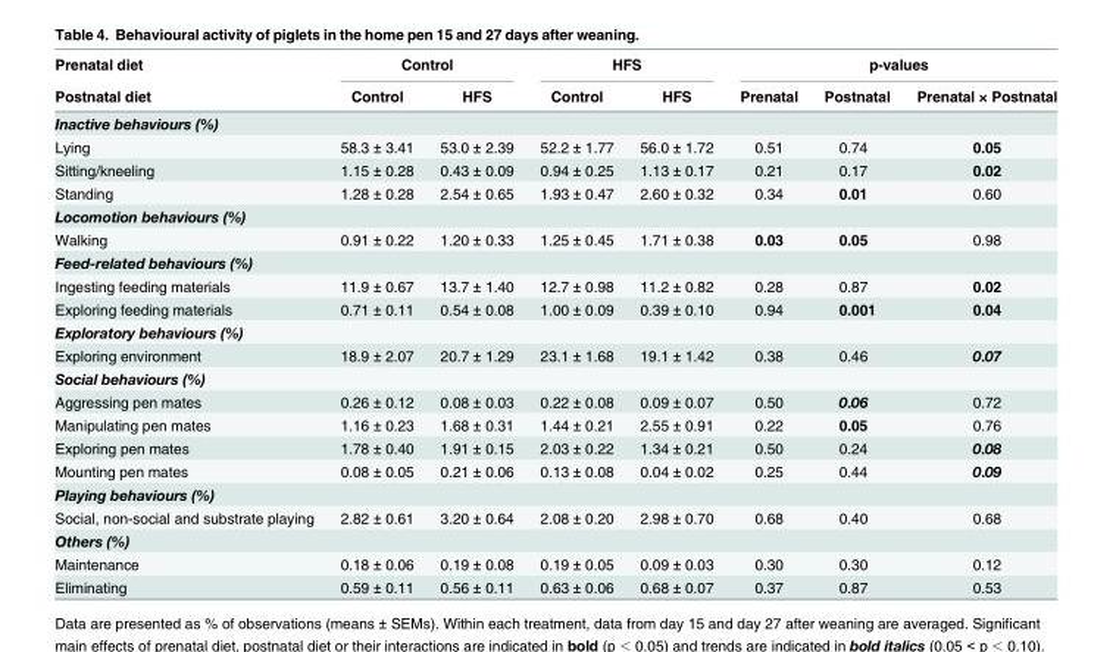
<table><thead><tr><td rowspan="2">Prenatal diet Postnatal diet</td><td colspan="2">Control</td><td colspan="2">HFS</td><td colspan="3">p-values</td></tr><tr><td>Control</td><td>HFS</td><td>Control</td><td>HFS</td><td>Prenatal</td><td>Postnatal</td><td>Prenatal × Postnatal</td></tr></thead><tbody><tr><td colspan="8">Inactive behaviours (%)</td></tr><tr><td>Lying</td><td>58.3 ± 3.41</td><td>53.0 ± 2.39</td><td>52.2 ± 1.77</td><td>56.0 ± 1.72</td><td>0.51</td><td>0.74</td><td>0.05</td></tr><tr><td>Sitting/kneeling</td><td>1.15 ± 0.28</td><td>0.43 ± 0.09</td><td>0.94 ± 0.25</td><td>1.13 ± 0.17</td><td>0.21</td><td>0.17</td><td>0.02</td></tr><tr><td>Standing</td><td>1.28 ± 0.28</td><td>2.54 ± 0.65</td><td>1.93 ± 0.47</td><td>2.60 ± 0.32</td><td>0.34</td><td>0.01</td><td>0.60</td></tr><tr><td colspan="8">Locomotion behaviours (%)</td></tr><tr><td>Walking</td><td>0.91 ± 0.22</td><td>1.20 ± 0.33</td><td>1.25 ± 0.45</td><td>1.71 ± 0.38</td><td>0.03</td><td>0.05</td><td>0.98</td></tr><tr><td colspan="8">Feed-related behaviours (%)</td></tr><tr><td>Ingesting feeding materials</td><td>11.9 ± 0.67</td><td>13.7 ± 1.40</td><td>12.7 ± 0.98</td><td>11.2 ± 0.82</td><td>0.28</td><td>0.87</td><td>0.02</td></tr><tr><td>Exploring feeding materials</td><td>0.71 ± 0.11</td><td>0.54 ± 0.08</td><td>1.00 ± 0.09</td><td>0.39 ± 0.10</td><td>0.94</td><td>0.001</td><td>0.04</td></tr><tr><td colspan="8">Exploratory behaviours (%)</td></tr><tr><td>Exploring environment</td><td>18.9 ± 2.07</td><td>20.7 ± 1.29</td><td>23.1 ± 1.68</td><td>19.1 ± 1.42</td><td>0.38</td><td>0.46</td><td>0.07</td></tr><tr><td colspan="8">Social behaviours (%)</td></tr><tr><td>Aggressing pen mates</td><td>0.26 ± 0.12</td><td>0.08 ± 0.03</td><td>0.22 ± 0.08</td><td>0.09 ± 0.07</td><td>0.50</td><td>0.06</td><td>0.72</td></tr><tr><td>Manipulating pen mates</td><td>1.16 ± 0.23</td><td>1.68 ± 0.31</td><td>1.44 ± 0.21</td><td>2.55 ± 0.91</td><td>0.22</td><td>0.05</td><td>0.76</td></tr><tr><td>Exploring pen mates</td><td>1.78 ± 0.40</td><td>1.91 ± 0.15</td><td>2.03 ± 0.22</td><td>1.34 ± 0.21</td><td>0.50</td><td>0.24</td><td>0.08</td></tr><tr><td>Mounting pen mates</td><td>0.08 ± 0.05</td><td>0.21 ± 0.06</td><td>0.13 ± 0.08</td><td>0.04 ± 0.02</td><td>0.25</td><td>0.44</td><td>0.09</td></tr><tr><td colspan="8">Playing behaviours (%)</td></tr><tr><td>Social, non-social and substrate playing</td><td>2.82 ± 0.61</td><td>3.20 ± 0.64</td><td>2.08 ± 0.20</td><td>2.98 ± 0.70</td><td>0.68</td><td>0.40</td><td>0.68</td></tr><tr><td colspan="8">Others (%)</td></tr><tr><td>Maintenance</td><td>0.18 ± 0.06</td><td>0.19 ± 0.08</td><td>0.19 ± 0.05</td><td>0.09 ± 0.03</td><td>0.30</td><td>0.30</td><td>0.12</td></tr><tr><td>Eliminating</td><td>0.59 ± 0.11</td><td>0.56 ± 0.11</td><td>0.63 ± 0.06</td><td>0.68 ± 0.07</td><td>0.37</td><td>0.87</td><td>0.53</td></tr></tbody></table>